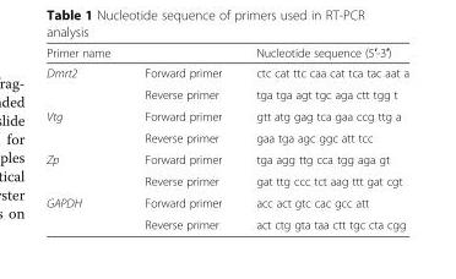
<table><thead><tr><td>Primer name</td><td></td><td>Nucleotide sequence (5′-3′)</td></tr></thead><tbody><tr><td rowspan="2">Dmrt2</td><td>Forward primer</td><td>ctc cat ttc caa cat tca tac aat a</td></tr><tr><td>Reverse primer</td><td>tga tga agt tgc aga ctt tgg t</td></tr><tr><td rowspan="2">Vtg</td><td>Forward primer</td><td>gtt atg gag tca gaa ccg ttg a</td></tr><tr><td>Reverse primer</td><td>gaa tga agc ggc att tcc</td></tr><tr><td rowspan="2">Zp</td><td>Forward primer</td><td>tga agg ttg cca tgg aga gt</td></tr><tr><td>Reverse primer</td><td>gat ttg ccc tct aag ttt gat cgt</td></tr><tr><td rowspan="2">GAPDH</td><td>Forward primer</td><td>acc act gtc cac gcc att</td></tr><tr><td>Reverse primer</td><td>act ctg gta taa ctt tgc cta cgg</td></tr></tbody></table>